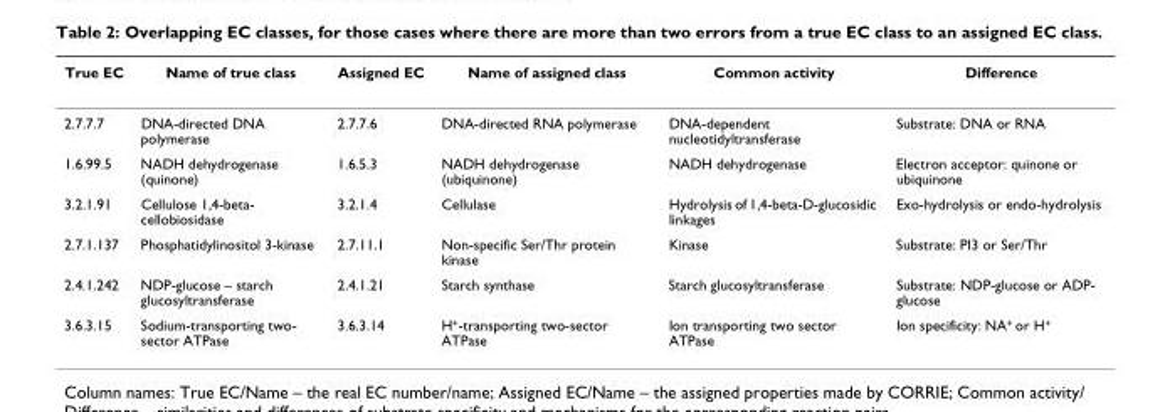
<table><thead><tr><td>True EC</td><td>Name of true class</td><td>Assigned EC</td><td>Name of assigned class</td><td>Common activity</td><td>Difference</td></tr></thead><tbody><tr><td>2.7.7.7</td><td>DNA-directed DNA polymerase</td><td>2.7.7.6</td><td>DNA-directed RNA polymerase</td><td>DNA-dependent nucleotidyltransferase</td><td>Substrate: DNA or RNA</td></tr><tr><td>1.6.99.5</td><td>NADH dehydrogenase (quinone)</td><td>1.6.5.3</td><td>NADH dehydrogenase (ubiquinone)</td><td>NADH dehydrogenase</td><td>Electron acceptor: quinone or ubiquinone</td></tr><tr><td>3.2.1.91</td><td>Cellulose 1,4-beta- cellobiosidase</td><td>3.2.1.4</td><td>Cellulase</td><td>Hydrolysis of 1,4-beta-D-glucosidic linkages</td><td>Exo-hydrolysis or endo-hydrolysis</td></tr><tr><td>2.7.1.137</td><td>Phosphatidylinositol 3-kinase</td><td>2.7.11.1</td><td>Non-specific Ser/Thr protein kinase</td><td>Kinase</td><td>Substrate: PI3 or Ser/Thr</td></tr><tr><td>2.4.1.242</td><td>NDP-glucose – starch glucosyltransferase</td><td>2.4.1.21</td><td>Starch synthase</td><td>Starch glucosyltransferase</td><td>Substrate: NDP-glucose or ADP- glucose</td></tr><tr><td>3.6.3.15</td><td>Sodium-transporting two- sector ATPase</td><td>3.6.3.14</td><td>H+-transporting two-sector ATPase</td><td>Ion transporting two sector ATPase</td><td>Ion specificity: NA+ or H+</td></tr></tbody></table>